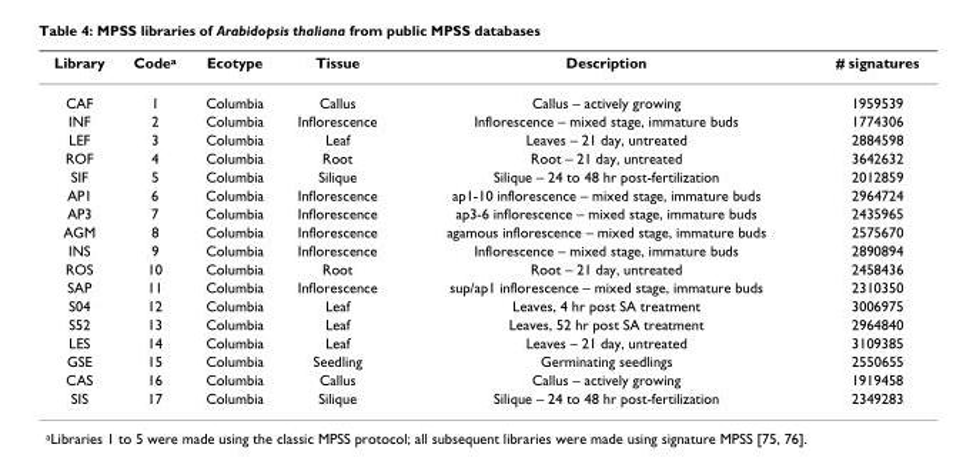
<table><thead><tr><td>Library</td><td>Code<sup>a</sup></td><td>Ecotype</td><td>Tissue</td><td>Description</td><td># signatures</td></tr></thead><tbody><tr><td>CAF</td><td>1</td><td>Columbia</td><td>Callus</td><td>Callus – actively growing</td><td>1959539</td></tr><tr><td>INF</td><td>2</td><td>Columbia</td><td>Inflorescence</td><td>Inflorescence – mixed stage, immature buds</td><td>1774306</td></tr><tr><td>LEF</td><td>3</td><td>Columbia</td><td>Leaf</td><td>Leaves – 21 day, untreated</td><td>2884598</td></tr><tr><td>ROF</td><td>4</td><td>Columbia</td><td>Root</td><td>Root – 21 day, untreated</td><td>3642632</td></tr><tr><td>SIF</td><td>5</td><td>Columbia</td><td>Silique</td><td>Silique – 24 to 48 hr post-fertilization</td><td>2012859</td></tr><tr><td>AP1</td><td>6</td><td>Columbia</td><td>Inflorescence</td><td>ap1-10 inflorescence – mixed stage, immature buds</td><td>2964724</td></tr><tr><td>AP3</td><td>7</td><td>Columbia</td><td>Inflorescence</td><td>ap3-6 inflorescence – mixed stage, immature buds</td><td>2435965</td></tr><tr><td>AGM</td><td>8</td><td>Columbia</td><td>Inflorescence</td><td>agamous inflorescence – mixed stage, immature buds</td><td>2575670</td></tr><tr><td>INS</td><td>9</td><td>Columbia</td><td>Inflorescence</td><td>Inflorescence – mixed stage, immature buds</td><td>2890894</td></tr><tr><td>ROS</td><td>10</td><td>Columbia</td><td>Root</td><td>Root – 21 day, untreated</td><td>2458436</td></tr><tr><td>SAP</td><td>11</td><td>Columbia</td><td>Inflorescence</td><td>sup/ap1 inflorescence – mixed stage, immature buds</td><td>2310350</td></tr><tr><td>S04</td><td>12</td><td>Columbia</td><td>Leaf</td><td>Leaves, 4 hr post SA treatment</td><td>3006975</td></tr><tr><td>S52</td><td>13</td><td>Columbia</td><td>Leaf</td><td>Leaves, 52 hr post SA treatment</td><td>2964840</td></tr><tr><td>LES</td><td>14</td><td>Columbia</td><td>Leaf</td><td>Leaves – 21 day, untreated</td><td>3109385</td></tr><tr><td>GSE</td><td>15</td><td>Columbia</td><td>Seedling</td><td>Germinating seedlings</td><td>2550655</td></tr><tr><td>CAS</td><td>16</td><td>Columbia</td><td>Callus</td><td>Callus – actively growing</td><td>1919458</td></tr><tr><td>SIS</td><td>17</td><td>Columbia</td><td>Silique</td><td>Silique – 24 to 48 hr post-fertilization</td><td>2349283</td></tr></tbody></table>